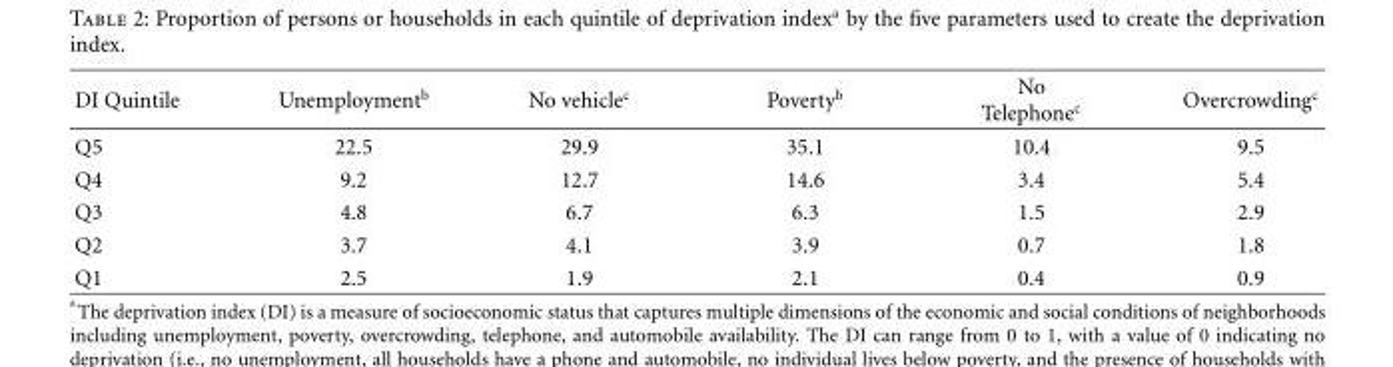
<table><thead><tr><td>DI Quintile</td><td>Unemployment<sup>b</sup></td><td>No vehicle<sup>c</sup></td><td>Poverty<sup>b</sup></td><td>No Telephone<sup>c</sup></td><td>Overcrowding<sup>c</sup></td></tr></thead><tbody><tr><td>Q5</td><td>22.5</td><td>29.9</td><td>35.1</td><td>10.4</td><td>9.5</td></tr><tr><td>Q4</td><td>9.2</td><td>12.7</td><td>14.6</td><td>3.4</td><td>5.4</td></tr><tr><td>Q3</td><td>4.8</td><td>6.7</td><td>6.3</td><td>1.5</td><td>2.9</td></tr><tr><td>Q2</td><td>3.7</td><td>4.1</td><td>3.9</td><td>0.7</td><td>1.8</td></tr><tr><td>Q1</td><td>2.5</td><td>1.9</td><td>2.1</td><td>0.4</td><td>0.9</td></tr></tbody></table>